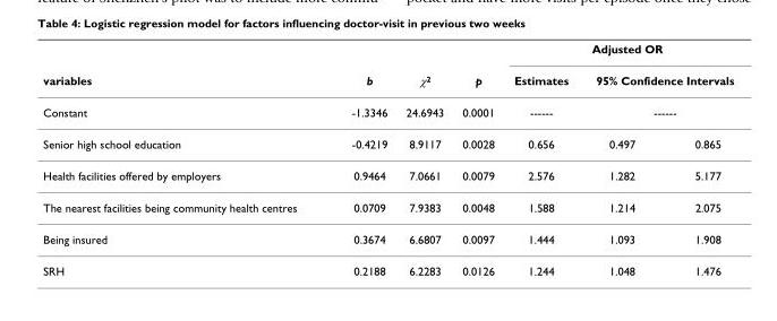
<table><thead><tr><td rowspan="4">variables Constant Senior high school education</td><td rowspan="4">b -1.3346 -0.4219</td><td rowspan="4">χ2 24.6943 8.9117</td><td rowspan="4">p 0.0001 0.0028</td><td colspan="3">Adjusted OR</td></tr><tr><td rowspan="3">Estimates ------ 0.656</td><td rowspan="2" colspan="2">95% Confidence Intervals ------</td></tr><tr></tr><tr><td>0.497</td><td>0.865</td></tr></thead><tbody><tr><td>Health facilities offered by employers</td><td>0.9464</td><td>7.0661</td><td>0.0079</td><td>2.576</td><td>1.282</td><td>5.177</td></tr><tr><td>The nearest facilities being community health centres</td><td>0.0709</td><td>7.9383</td><td>0.0048</td><td>1.588</td><td>1.214</td><td>2.075</td></tr><tr><td>Being insured</td><td>0.3674</td><td>6.6807</td><td>0.0097</td><td>1.444</td><td>1.093</td><td>1.908</td></tr><tr><td>SRH</td><td>0.2188</td><td>6.2283</td><td>0.0126</td><td>1.244</td><td>1.048</td><td>1.476</td></tr></tbody></table>